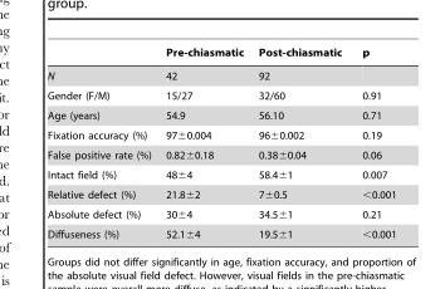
<table><thead><tr><td></td><td>Pre-chiasmatic</td><td>Post-chiasmatic</td><td>p</td></tr></thead><tbody><tr><td>N</td><td>42</td><td>92</td><td></td></tr><tr><td>Gender (F/M)</td><td>15/27</td><td>32/60</td><td>0.91</td></tr><tr><td>Age (years)</td><td>54.9</td><td>56.10</td><td>0.71</td></tr><tr><td>Fixation accuracy (%)</td><td>97±0.004</td><td>96±0.002</td><td>0.19</td></tr><tr><td>False positive rate (%)</td><td>0.82±0.18</td><td>0.38±0.04</td><td>0.06</td></tr><tr><td>Intact field (%)</td><td>48±4</td><td>58.4±1</td><td>0.007</td></tr><tr><td>Relative defect (%)</td><td>21.8±2</td><td>7±0.5</td><td>&lt;0.001</td></tr><tr><td>Absolute defect (%)</td><td>30±4</td><td>34.5±1</td><td>0.21</td></tr><tr><td>Diffuseness (%)</td><td>52.1±4</td><td>19.5±1</td><td>&lt;0.001</td></tr></tbody></table>